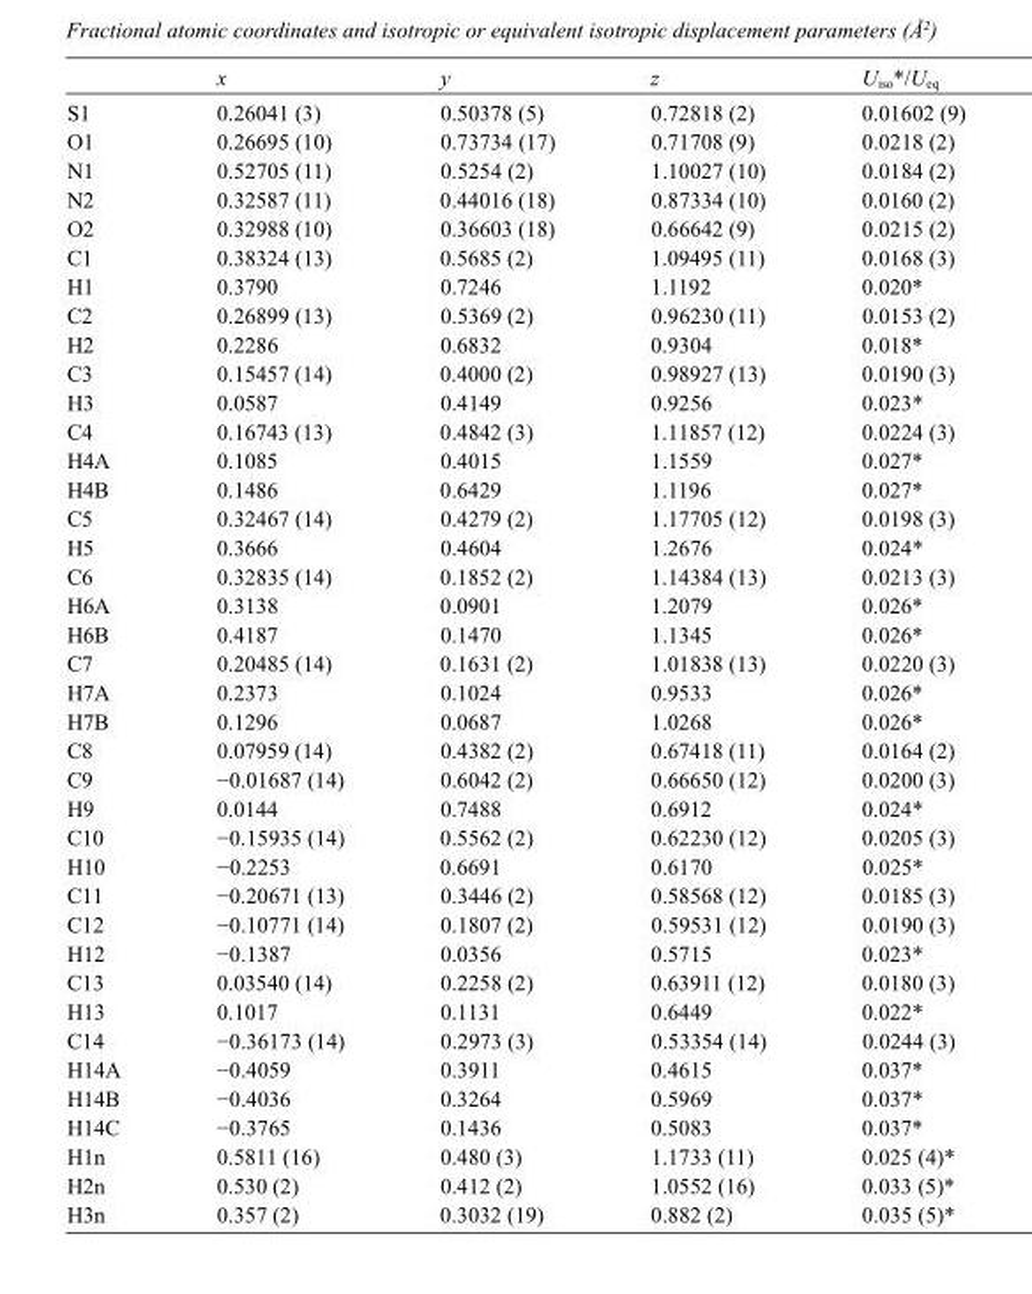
<table><thead><tr><td></td><td>x</td><td>y</td><td>z</td><td>U<sub>iso</sub>*/U<sub>eq</sub></td></tr></thead><tbody><tr><td>S1</td><td>0.26041 (3)</td><td>0.50378 (5)</td><td>0.72818 (2)</td><td>0.01602 (9)</td></tr><tr><td>O1</td><td>0.26695 (10)</td><td>0.73734 (17)</td><td>0.71708 (9)</td><td>0.0218 (2)</td></tr><tr><td>N1</td><td>0.52705 (11)</td><td>0.5254 (2)</td><td>1.10027 (10)</td><td>0.0184 (2)</td></tr><tr><td>N2</td><td>0.32587 (11)</td><td>0.44016 (18)</td><td>0.87334 (10)</td><td>0.0160 (2)</td></tr><tr><td>O2</td><td>0.32988 (10)</td><td>0.36603 (18)</td><td>0.66642 (9)</td><td>0.0215 (2)</td></tr><tr><td>C1</td><td>0.38324 (13)</td><td>0.5685 (2)</td><td>1.09495 (11)</td><td>0.0168 (3)</td></tr><tr><td>H1</td><td>0.3790</td><td>0.7246</td><td>1.1192</td><td>0.020*</td></tr><tr><td>C2</td><td>0.26899 (13)</td><td>0.5369 (2)</td><td>0.96230 (11)</td><td>0.0153 (2)</td></tr><tr><td>H2</td><td>0.2286</td><td>0.6832</td><td>0.9304</td><td>0.018*</td></tr><tr><td>C3</td><td>0.15457 (14)</td><td>0.4000 (2)</td><td>0.98927 (13)</td><td>0.0190 (3)</td></tr><tr><td>H3</td><td>0.0587</td><td>0.4149</td><td>0.9256</td><td>0.023*</td></tr><tr><td>C4</td><td>0.16743 (13)</td><td>0.4842 (3)</td><td>1.11857 (12)</td><td>0.0224 (3)</td></tr><tr><td>H4A</td><td>0.1085</td><td>0.4015</td><td>1.1559</td><td>0.027*</td></tr><tr><td>H4B</td><td>0.1486</td><td>0.6429</td><td>1.1196</td><td>0.027*</td></tr><tr><td>C5</td><td>0.32467 (14)</td><td>0.4279 (2)</td><td>1.17705 (12)</td><td>0.0198 (3)</td></tr><tr><td>H5</td><td>0.3666</td><td>0.4604</td><td>1.2676</td><td>0.024*</td></tr><tr><td>C6</td><td>0.32835 (14)</td><td>0.1852 (2)</td><td>1.14384 (13)</td><td>0.0213 (3)</td></tr><tr><td>H6A</td><td>0.3138</td><td>0.0901</td><td>1.2079</td><td>0.026*</td></tr><tr><td>H6B</td><td>0.4187</td><td>0.1470</td><td>1.1345</td><td>0.026*</td></tr><tr><td>C7</td><td>0.20485 (14)</td><td>0.1631 (2)</td><td>1.01838 (13)</td><td>0.0220 (3)</td></tr><tr><td>H7A</td><td>0.2373</td><td>0.1024</td><td>0.9533</td><td>0.026*</td></tr><tr><td>H7B</td><td>0.1296</td><td>0.0687</td><td>1.0268</td><td>0.026*</td></tr><tr><td>C8</td><td>0.07959 (14)</td><td>0.4382 (2)</td><td>0.67418 (11)</td><td>0.0164 (2)</td></tr><tr><td>C9</td><td>−0.01687 (14)</td><td>0.6042 (2)</td><td>0.66650 (12)</td><td>0.0200 (3)</td></tr><tr><td>H9</td><td>0.0144</td><td>0.7488</td><td>0.6912</td><td>0.024*</td></tr><tr><td>C10</td><td>−0.15935 (14)</td><td>0.5562 (2)</td><td>0.62230 (12)</td><td>0.0205 (3)</td></tr><tr><td>H10</td><td>−0.2253</td><td>0.6691</td><td>0.6170</td><td>0.025*</td></tr><tr><td>C11</td><td>−0.20671 (13)</td><td>0.3446 (2)</td><td>0.58568 (12)</td><td>0.0185 (3)</td></tr><tr><td>C12</td><td>−0.10771 (14)</td><td>0.1807 (2)</td><td>0.59531 (12)</td><td>0.0190 (3)</td></tr><tr><td>H12</td><td>−0.1387</td><td>0.0356</td><td>0.5715</td><td>0.023*</td></tr><tr><td>C13</td><td>0.03540 (14)</td><td>0.2258 (2)</td><td>0.63911 (12)</td><td>0.0180 (3)</td></tr><tr><td>H13</td><td>0.1017</td><td>0.1131</td><td>0.6449</td><td>0.022*</td></tr><tr><td>C14</td><td>−0.36173 (14)</td><td>0.2973 (3)</td><td>0.53354 (14)</td><td>0.0244 (3)</td></tr><tr><td>H14A</td><td>−0.4059</td><td>0.3911</td><td>0.4615</td><td>0.037*</td></tr><tr><td>H14B</td><td>−0.4036</td><td>0.3264</td><td>0.5969</td><td>0.037*</td></tr><tr><td>H14C</td><td>−0.3765</td><td>0.1436</td><td>0.5083</td><td>0.037*</td></tr><tr><td>H1n</td><td>0.5811 (16)</td><td>0.480 (3)</td><td>1.1733 (11)</td><td>0.025 (4)*</td></tr><tr><td>H2n</td><td>0.530 (2)</td><td>0.412 (2)</td><td>1.0552 (16)</td><td>0.033 (5)*</td></tr><tr><td>H3n</td><td>0.357 (2)</td><td>0.3032 (19)</td><td>0.882 (2)</td><td>0.035 (5)*</td></tr></tbody></table>